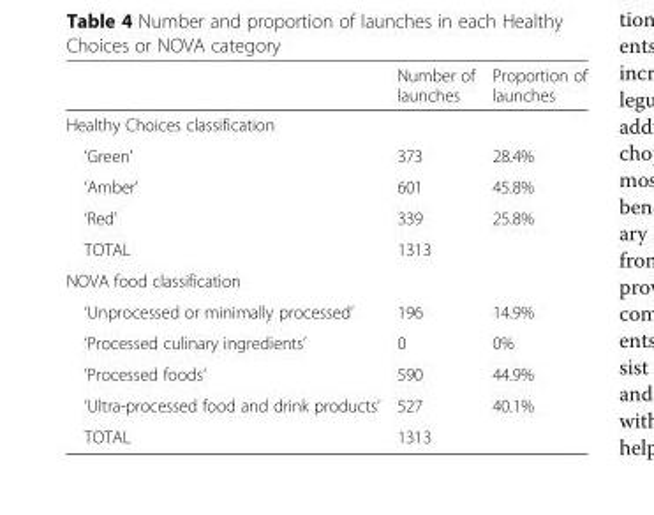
<table><thead><tr><td></td><td>Number of launches</td><td>Proportion of launches</td></tr></thead><tbody><tr><td colspan="3">Healthy Choices classification</td></tr><tr><td>‘Green’</td><td>373</td><td>28.4%</td></tr><tr><td>‘Amber’</td><td>601</td><td>45.8%</td></tr><tr><td>‘Red’</td><td>339</td><td>25.8%</td></tr><tr><td>TOTAL</td><td>1313</td><td></td></tr><tr><td colspan="3">NOVA food classification</td></tr><tr><td>‘Unprocessed or minimally processed’</td><td>196</td><td>14.9%</td></tr><tr><td>‘Processed culinary ingredients’</td><td>0</td><td>0%</td></tr><tr><td>‘Processed foods’</td><td>590</td><td>44.9%</td></tr><tr><td>‘Ultra-processed food and drink products’</td><td>527</td><td>40.1%</td></tr><tr><td>TOTAL</td><td>1313</td><td></td></tr></tbody></table>